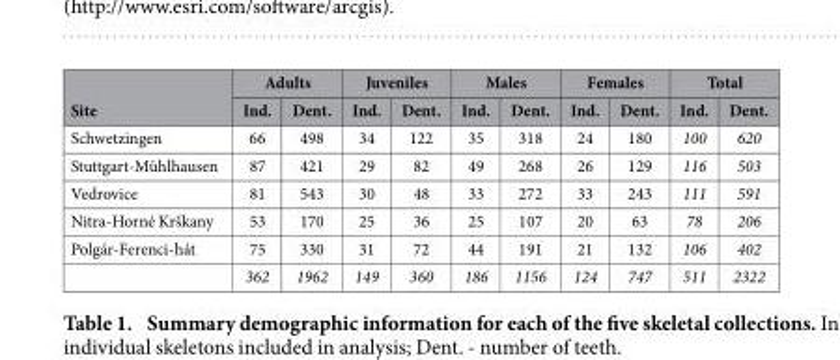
<table><thead><tr><td rowspan="2">Site</td><td colspan="2">Adults</td><td colspan="2">Juveniles</td><td colspan="2">Males</td><td colspan="2">Females</td><td colspan="2">Total</td></tr><tr><td>Ind.</td><td>Dent.</td><td>Ind.</td><td>Dent.</td><td>Ind.</td><td>Dent.</td><td>Ind.</td><td>Dent.</td><td>Ind.</td><td>Dent.</td></tr></thead><tbody><tr><td>Schwetzingen</td><td>66</td><td>498</td><td>34</td><td>122</td><td>35</td><td>318</td><td>24</td><td>180</td><td>100</td><td>620</td></tr><tr><td>Stuttgart-Mühlhausen</td><td>87</td><td>421</td><td>29</td><td>82</td><td>49</td><td>268</td><td>26</td><td>129</td><td>116</td><td>503</td></tr><tr><td>Vedrovice</td><td>81</td><td>543</td><td>30</td><td>48</td><td>33</td><td>272</td><td>33</td><td>243</td><td>111</td><td>591</td></tr><tr><td>Nitra-Horné Krškany</td><td>53</td><td>170</td><td>25</td><td>36</td><td>25</td><td>107</td><td>20</td><td>63</td><td>78</td><td>206</td></tr><tr><td rowspan="2">Polgár-Ferenci-hát</td><td>75</td><td>330</td><td>31</td><td>72</td><td>44</td><td>191</td><td>21</td><td>132</td><td>106</td><td>402</td></tr><tr><td>362</td><td>1962</td><td>149</td><td>360</td><td>186</td><td>1156</td><td>124</td><td>747</td><td>511</td><td>2322</td></tr></tbody></table>